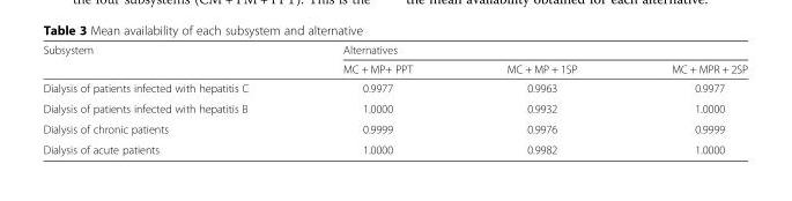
<table><thead><tr><td rowspan="2">Subsystem</td><td colspan="3">Alternatives</td></tr><tr><td>MC + MP+ PPT</td><td>MC + MP + 1SP</td><td>MC + MPR + 2SP</td></tr></thead><tbody><tr><td>Dialysis of patients infected with hepatitis C</td><td>0.9977</td><td>0.9963</td><td>0.9977</td></tr><tr><td>Dialysis of patients infected with hepatitis B</td><td>1.0000</td><td>0.9932</td><td>1.0000</td></tr><tr><td>Dialysis of chronic patients</td><td>0.9999</td><td>0.9976</td><td>0.9999</td></tr><tr><td>Dialysis of acute patients</td><td>1.0000</td><td>0.9982</td><td>1.0000</td></tr></tbody></table>